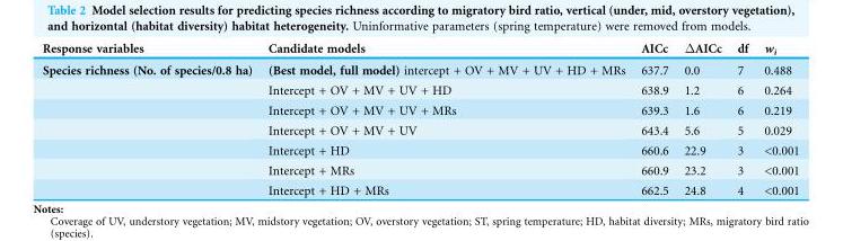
<table><thead><tr><td>Response variables</td><td>Candidate models</td><td>AICc</td><td>ΔAICc</td><td>df</td><td>w<sub>i</sub></td></tr></thead><tbody><tr><td rowspan="7">Species richness (No. of species/0.8 ha)</td><td>(Best model, full model) intercept + OV + MV + UV + HD + MRs</td><td>637.7</td><td>0.0</td><td>7</td><td>0.488</td></tr><tr><td>Intercept + OV + MV + UV + HD</td><td>638.9</td><td>1.2</td><td>6</td><td>0.264</td></tr><tr><td>Intercept + OV + MV + UV + MRs</td><td>639.3</td><td>1.6</td><td>6</td><td>0.219</td></tr><tr><td>Intercept + OV + MV + UV</td><td>643.4</td><td>5.6</td><td>5</td><td>0.029</td></tr><tr><td>Intercept + HD</td><td>660.6</td><td>22.9</td><td>3</td><td>&lt;0.001</td></tr><tr><td>Intercept + MRs</td><td>660.9</td><td>23.2</td><td>3</td><td>&lt;0.001</td></tr><tr><td>Intercept + HD + MRs</td><td>662.5</td><td>24.8</td><td>4</td><td>&lt;0.001</td></tr></tbody></table>